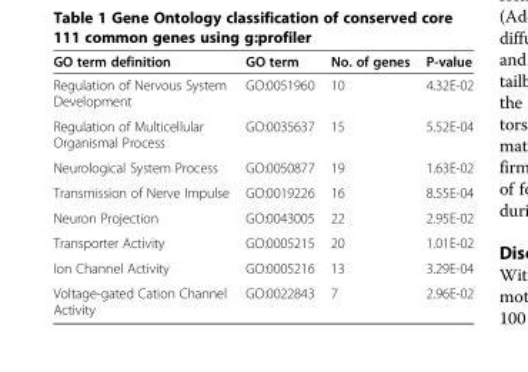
<table><thead><tr><td>GO term definition</td><td>GO term</td><td>No. of genes</td><td>P-value</td></tr></thead><tbody><tr><td>Regulation of Nervous System Development</td><td>GO:0051960</td><td>10</td><td>4.32E-02</td></tr><tr><td>Regulation of Multicellular Organismal Process</td><td>GO:0035637</td><td>15</td><td>5.52E-04</td></tr><tr><td>Neurological System Process</td><td>GO:0050877</td><td>19</td><td>1.63E-02</td></tr><tr><td>Transmission of Nerve Impulse</td><td>GO:0019226</td><td>16</td><td>8.55E-04</td></tr><tr><td>Neuron Projection</td><td>GO:0043005</td><td>22</td><td>2.95E-02</td></tr><tr><td>Transporter Activity</td><td>GO:0005215</td><td>20</td><td>1.01E-02</td></tr><tr><td>Ion Channel Activity</td><td>GO:0005216</td><td>13</td><td>3.29E-04</td></tr><tr><td>Voltage-gated Cation Channel Activity</td><td>GO:0022843</td><td>7</td><td>2.96E-02</td></tr></tbody></table>